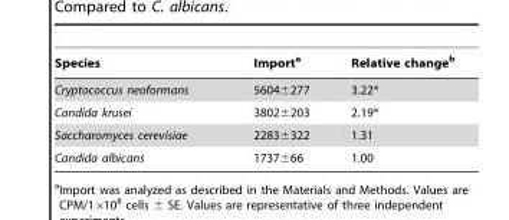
<table><thead><tr><td>Species</td><td>Import<sup>a</sup></td><td>Relative change<sup>b</sup></td></tr></thead><tbody><tr><td>Cryptococcus neoformans</td><td>5604±277</td><td>3.22*</td></tr><tr><td>Candida krusei</td><td>3802±203</td><td>2.19*</td></tr><tr><td>Saccharomyces cerevisiae</td><td>2283±322</td><td>1.31</td></tr><tr><td>Candida albicans</td><td>1737±66</td><td>1.00</td></tr></tbody></table>